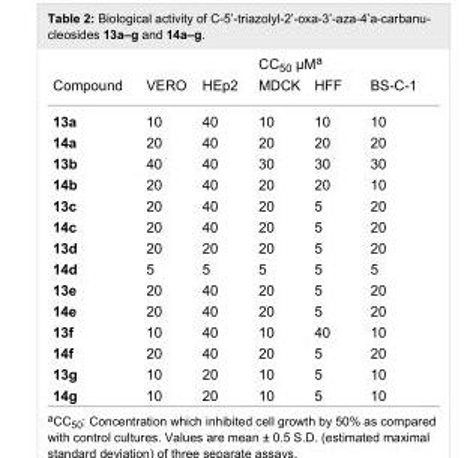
<table><thead><tr><td rowspan="2">Compound</td><td colspan="5">CC<sub>50</sub> μM<sup>a</sup></td></tr><tr><td>VERO</td><td>HEp2</td><td>MDCK</td><td>HFF</td><td>BS-C-1</td></tr></thead><tbody><tr><td>13a</td><td>10</td><td>40</td><td>10</td><td>10</td><td>10</td></tr><tr><td>14a</td><td>20</td><td>40</td><td>20</td><td>20</td><td>20</td></tr><tr><td>13b</td><td>40</td><td>40</td><td>30</td><td>30</td><td>30</td></tr><tr><td>14b</td><td>20</td><td>40</td><td>20</td><td>20</td><td>10</td></tr><tr><td>13c</td><td>20</td><td>40</td><td>20</td><td>5</td><td>20</td></tr><tr><td>14c</td><td>20</td><td>40</td><td>20</td><td>5</td><td>20</td></tr><tr><td>13d</td><td>20</td><td>20</td><td>20</td><td>5</td><td>20</td></tr><tr><td>14d</td><td>5</td><td>5</td><td>5</td><td>5</td><td>5</td></tr><tr><td>13e</td><td>20</td><td>40</td><td>20</td><td>5</td><td>20</td></tr><tr><td>14e</td><td>20</td><td>40</td><td>20</td><td>5</td><td>20</td></tr><tr><td>13f</td><td>10</td><td>40</td><td>10</td><td>40</td><td>10</td></tr><tr><td>14f</td><td>20</td><td>40</td><td>20</td><td>5</td><td>20</td></tr><tr><td>13g</td><td>10</td><td>20</td><td>10</td><td>5</td><td>10</td></tr><tr><td>14g</td><td>10</td><td>20</td><td>10</td><td>5</td><td>10</td></tr></tbody></table>